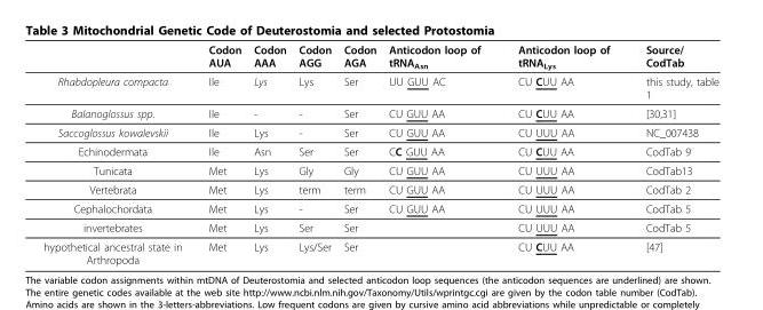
<table><thead><tr><td></td><td>Codon AUA</td><td>Codon AAA</td><td>Codon AGG</td><td>Codon AGA</td><td>Anticodon loop of tRNA<sub>Asn</sub></td><td>Anticodon loop of tRNA<sub>Lys</sub></td><td>Source/ CodTab</td></tr></thead><tbody><tr><td>Rhabdopleura compacta</td><td>Ile</td><td>Lys</td><td>Lys</td><td>Ser</td><td>UU GUU AC</td><td>CU CUU AA</td><td>this study, table 1</td></tr><tr><td>Balanoglossus spp.</td><td>Ile</td><td>-</td><td>-</td><td>Ser</td><td>CU GUU AA</td><td>CU CUU AA</td><td>[30,31]</td></tr><tr><td>Saccoglossus kowalevskii</td><td>Ile</td><td>Lys</td><td>-</td><td>Ser</td><td>CU GUU AA</td><td>CU UUU AA</td><td>NC_007438</td></tr><tr><td>Echinodermata</td><td>Ile</td><td>Asn</td><td>Ser</td><td>Ser</td><td>CC GUU AA</td><td>CU CUU AA</td><td>CodTab 9</td></tr><tr><td>Tunicata</td><td>Met</td><td>Lys</td><td>Gly</td><td>Gly</td><td>CU GUU AA</td><td>CU UUU AA</td><td>CodTab13</td></tr><tr><td>Vertebrata</td><td>Met</td><td>Lys</td><td>term</td><td>term</td><td>CU GUU AA</td><td>CU UUU AA</td><td>CodTab 2</td></tr><tr><td>Cephalochordata</td><td>Met</td><td>Lys</td><td>-</td><td>Ser</td><td>CU GUU AA</td><td>CU UUU AA</td><td>CodTab 5</td></tr><tr><td>invertebrates</td><td>Met</td><td>Lys</td><td>Ser</td><td>Ser</td><td></td><td>CU UUU AA</td><td>CodTab 5</td></tr><tr><td>hypothetical ancestral state in Arthropoda</td><td>Met</td><td>Lys</td><td>Lys/Ser</td><td>Ser</td><td></td><td>CU CUU AA</td><td>[47]</td></tr></tbody></table>